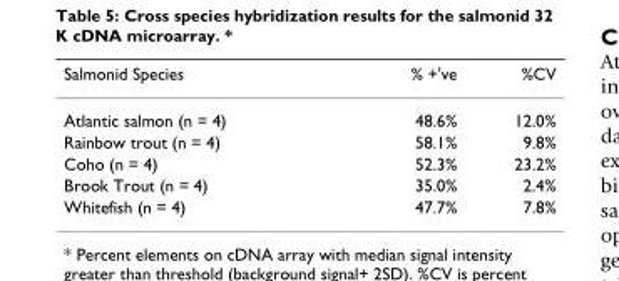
<table><thead><tr><td>Salmonid Species</td><td>% +&#x27;ve</td><td>%CV</td></tr></thead><tbody><tr><td>Atlantic salmon (n = 4)</td><td>48.6%</td><td>12.0%</td></tr><tr><td>Rainbow trout (n = 4)</td><td>58.1%</td><td>9.8%</td></tr><tr><td>Coho (n = 4)</td><td>52.3%</td><td>23.2%</td></tr><tr><td>Brook Trout (n = 4)</td><td>35.0%</td><td>2.4%</td></tr><tr><td>Whitefish (n = 4)</td><td>47.7%</td><td>7.8%</td></tr></tbody></table>